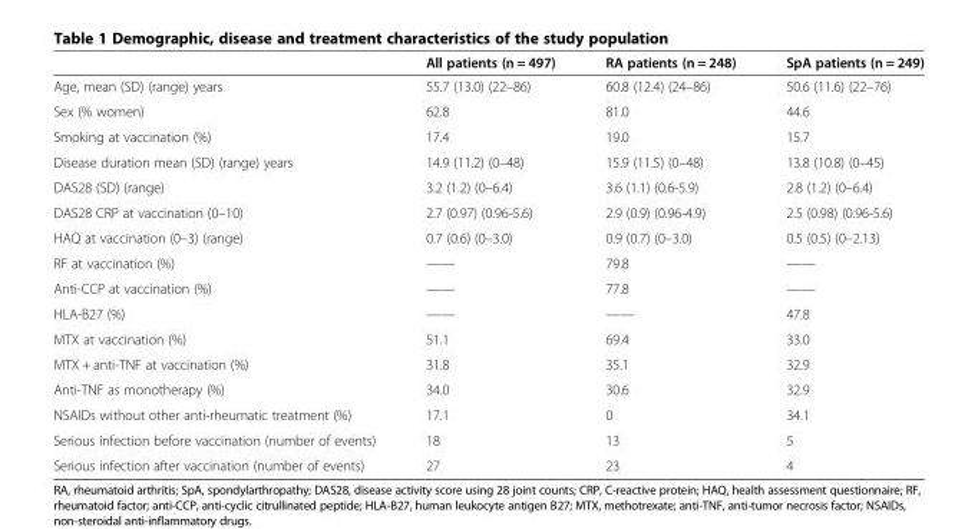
<table><thead><tr><td></td><td>All patients (n = 497)</td><td>RA patients (n = 248)</td><td>SpA patients (n = 249)</td></tr></thead><tbody><tr><td>Age, mean (SD) (range) years</td><td>55.7 (13.0) (22–86)</td><td>60.8 (12.4) (24–86)</td><td>50.6 (11.6) (22–76)</td></tr><tr><td>Sex (% women)</td><td>62.8</td><td>81.0</td><td>44.6</td></tr><tr><td>Smoking at vaccination (%)</td><td>17.4</td><td>19.0</td><td>15.7</td></tr><tr><td>Disease duration mean (SD) (range) years</td><td>14.9 (11.2) (0–48)</td><td>15.9 (11.5) (0–48)</td><td>13.8 (10.8) (0–45)</td></tr><tr><td>DAS28 (SD) (range)</td><td>3.2 (1.2) (0–6.4)</td><td>3.6 (1.1) (0.6-5.9)</td><td>2.8 (1.2) (0–6.4)</td></tr><tr><td>DAS28 CRP at vaccination (0–10)</td><td>2.7 (0.97) (0.96-5.6)</td><td>2.9 (0.9) (0.96-4.9)</td><td>2.5 (0.98) (0.96-5.6)</td></tr><tr><td>HAQ at vaccination (0–3) (range)</td><td>0.7 (0.6) (0–3.0)</td><td>0.9 (0.7) (0–3.0)</td><td>0.5 (0.5) (0–2.13)</td></tr><tr><td>RF at vaccination (%)</td><td>——</td><td>79.8</td><td>——</td></tr><tr><td>Anti-CCP at vaccination (%)</td><td>——</td><td>77.8</td><td>——</td></tr><tr><td>HLA-B27 (%)</td><td>——</td><td>——</td><td>47.8</td></tr><tr><td>MTX at vaccination (%)</td><td>51.1</td><td>69.4</td><td>33.0</td></tr><tr><td>MTX + anti-TNF at vaccination (%)</td><td>31.8</td><td>35.1</td><td>32.9</td></tr><tr><td>Anti-TNF as monotherapy (%)</td><td>34.0</td><td>30.6</td><td>32.9</td></tr><tr><td>NSAIDs without other anti-rheumatic treatment (%)</td><td>17.1</td><td>0</td><td>34.1</td></tr><tr><td>Serious infection before vaccination (number of events)</td><td>18</td><td>13</td><td>5</td></tr><tr><td>Serious infection after vaccination (number of events)</td><td>27</td><td>23</td><td>4</td></tr></tbody></table>